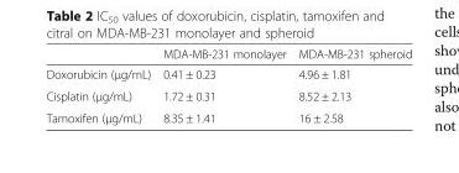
<table><thead><tr><td></td><td>MDA-MB-231 monolayer</td><td>MDA-MB-231 spheroid</td></tr></thead><tbody><tr><td>Doxorubicin (μg/mL)</td><td>0.41 ± 0.23</td><td>4.96 ± 1.81</td></tr><tr><td>Cisplatin (μg/mL)</td><td>1.72 ± 0.31</td><td>8.52 ± 2.13</td></tr><tr><td>Tamoxifen (μg/mL)</td><td>8.35 ± 1.41</td><td>16 ± 2.58</td></tr></tbody></table>